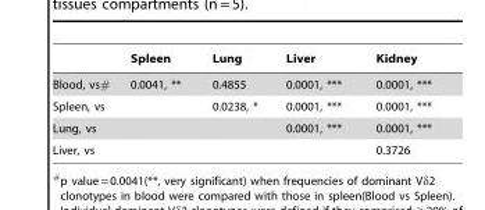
<table><thead><tr><td></td><td>Spleen</td><td>Lung</td><td>Liver</td><td>Kidney</td></tr></thead><tbody><tr><td>Blood, vs#</td><td>0.0041, **</td><td>0.4855</td><td>0.0001, ***</td><td>0.0001, ***</td></tr><tr><td>Spleen, vs</td><td></td><td>0.0238, *</td><td>0.0001, ***</td><td>0.0001, ***</td></tr><tr><td>Lung, vs</td><td></td><td></td><td>0.0001, ***</td><td>0.0001, ***</td></tr><tr><td>Liver, vs</td><td></td><td></td><td></td><td>0.3726</td></tr></tbody></table>